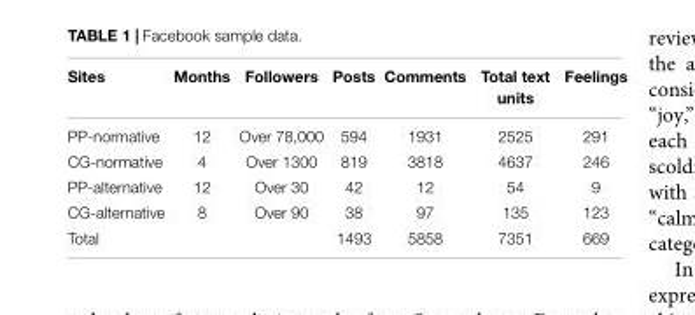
<table><thead><tr><td>Sites</td><td>Months</td><td>Followers</td><td>Posts</td><td>Comments</td><td>Total text units</td><td>Feelings</td></tr></thead><tbody><tr><td>PP-normative</td><td>12</td><td>Over 78,000</td><td>594</td><td>1931</td><td>2525</td><td>291</td></tr><tr><td>CG-normative</td><td>4</td><td>Over 1300</td><td>819</td><td>3818</td><td>4637</td><td>246</td></tr><tr><td>PP-alternative</td><td>12</td><td>Over 30</td><td>42</td><td>12</td><td>54</td><td>9</td></tr><tr><td>CG-alternative</td><td>8</td><td>Over 90</td><td>38</td><td>97</td><td>135</td><td>123</td></tr><tr><td>Total</td><td></td><td></td><td>1493</td><td>5858</td><td>7351</td><td>669</td></tr></tbody></table>